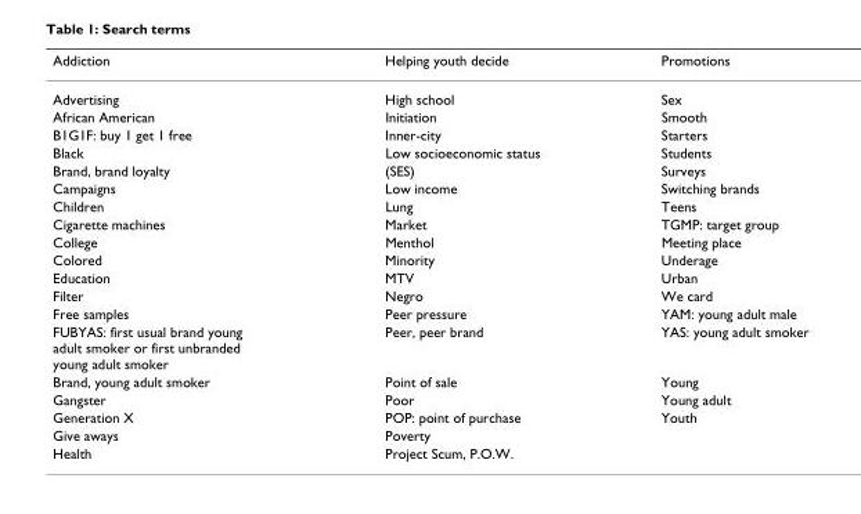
<table><thead><tr><td>Addiction</td><td>Helping youth decide</td><td>Promotions</td></tr></thead><tbody><tr><td>Advertising</td><td>High school</td><td>Sex</td></tr><tr><td>African American</td><td>Initiation</td><td>Smooth</td></tr><tr><td>B1G1F: buy 1 get 1 free</td><td>Inner-city</td><td>Starters</td></tr><tr><td>Black</td><td>Low socioeconomic status</td><td>Students</td></tr><tr><td>Brand, brand loyalty</td><td>(SES)</td><td>Surveys</td></tr><tr><td>Campaigns</td><td>Low income</td><td>Switching brands</td></tr><tr><td>Children</td><td>Lung</td><td>Teens</td></tr><tr><td>Cigarette machines</td><td>Market</td><td>TGMP: target group</td></tr><tr><td>College</td><td>Menthol</td><td>Meeting place</td></tr><tr><td>Colored</td><td>Minority</td><td>Underage</td></tr><tr><td>Education</td><td>MTV</td><td>Urban</td></tr><tr><td>Filter</td><td>Negro</td><td>We card</td></tr><tr><td>Free samples</td><td>Peer pressure</td><td>YAM: young adult male</td></tr><tr><td>FUBYAS: first usual brand young adult smoker or first unbranded young adult smoker</td><td>Peer, peer brand</td><td>YAS: young adult smoker</td></tr><tr><td>Brand, young adult smoker</td><td>Point of sale</td><td>Young</td></tr><tr><td>Gangster</td><td>Poor</td><td>Young adult</td></tr><tr><td>Generation X</td><td>POP: point of purchase</td><td>Youth</td></tr><tr><td>Give aways</td><td>Poverty</td><td></td></tr><tr><td>Health</td><td>Project Scum, P.O.W.</td><td></td></tr></tbody></table>